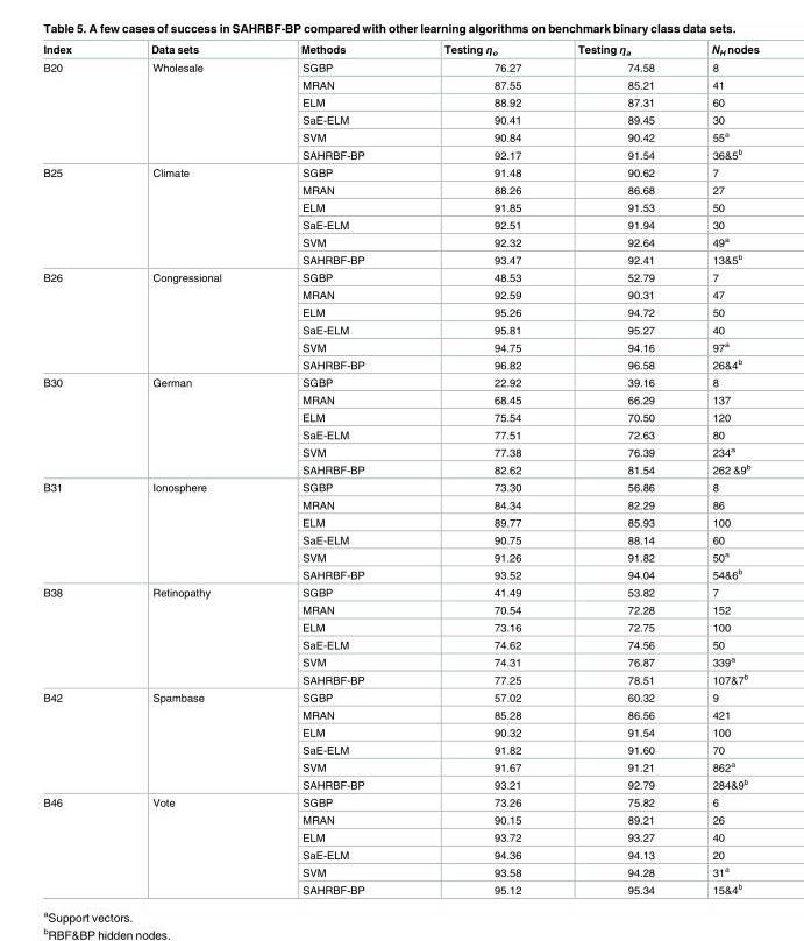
<table><thead><tr><td>Index</td><td>Data sets</td><td>Methods</td><td>Testing η<sub>o</sub></td><td>Testing η<sub>a</sub></td><td>N<sub>H</sub> nodes</td></tr></thead><tbody><tr><td rowspan="6">B20</td><td rowspan="6">Wholesale</td><td>SGBP</td><td>76.27</td><td>74.58</td><td>8</td></tr><tr><td>MRAN</td><td>87.55</td><td>85.21</td><td>41</td></tr><tr><td>ELM</td><td>88.92</td><td>87.31</td><td>60</td></tr><tr><td>SaE-ELM</td><td>90.41</td><td>89.45</td><td>30</td></tr><tr><td>SVM</td><td>90.84</td><td>90.42</td><td>55<sup>a</sup></td></tr><tr><td>SAHRBF-BP</td><td>92.17</td><td>91.54</td><td>36&amp;5<sup>b</sup></td></tr><tr><td rowspan="6">B25</td><td rowspan="6">Climate</td><td>SGBP</td><td>91.48</td><td>90.62</td><td>7</td></tr><tr><td>MRAN</td><td>88.26</td><td>86.68</td><td>27</td></tr><tr><td>ELM</td><td>91.85</td><td>91.53</td><td>50</td></tr><tr><td>SaE-ELM</td><td>92.51</td><td>91.94</td><td>30</td></tr><tr><td>SVM</td><td>92.32</td><td>92.64</td><td>49<sup>a</sup></td></tr><tr><td>SAHRBF-BP</td><td>93.47</td><td>92.41</td><td>13&amp;5<sup>b</sup></td></tr><tr><td rowspan="6">B26</td><td rowspan="6">Congressional</td><td>SGBP</td><td>48.53</td><td>52.79</td><td>7</td></tr><tr><td>MRAN</td><td>92.59</td><td>90.31</td><td>47</td></tr><tr><td>ELM</td><td>95.26</td><td>94.72</td><td>50</td></tr><tr><td>SaE-ELM</td><td>95.81</td><td>95.27</td><td>40</td></tr><tr><td>SVM</td><td>94.75</td><td>94.16</td><td>97<sup>a</sup></td></tr><tr><td>SAHRBF-BP</td><td>96.82</td><td>96.58</td><td>26&amp;4<sup>b</sup></td></tr><tr><td rowspan="6">B30</td><td rowspan="6">German</td><td>SGBP</td><td>22.92</td><td>39.16</td><td>8</td></tr><tr><td>MRAN</td><td>68.45</td><td>66.29</td><td>137</td></tr><tr><td>ELM</td><td>75.54</td><td>70.50</td><td>120</td></tr><tr><td>SaE-ELM</td><td>77.51</td><td>72.63</td><td>80</td></tr><tr><td>SVM</td><td>77.38</td><td>76.39</td><td>234<sup>a</sup></td></tr><tr><td>SAHRBF-BP</td><td>82.62</td><td>81.54</td><td>262 &amp;9<sup>b</sup></td></tr><tr><td rowspan="6">B31</td><td rowspan="6">Ionosphere</td><td>SGBP</td><td>73.30</td><td>56.86</td><td>8</td></tr><tr><td>MRAN</td><td>84.34</td><td>82.29</td><td>86</td></tr><tr><td>ELM</td><td>89.77</td><td>85.93</td><td>100</td></tr><tr><td>SaE-ELM</td><td>90.75</td><td>88.14</td><td>60</td></tr><tr><td>SVM</td><td>91.26</td><td>91.82</td><td>50<sup>a</sup></td></tr><tr><td>SAHRBF-BP</td><td>93.52</td><td>94.04</td><td>54&amp;6<sup>b</sup></td></tr><tr><td rowspan="6">B38</td><td rowspan="6">Retinopathy</td><td>SGBP</td><td>41.49</td><td>53.82</td><td>7</td></tr><tr><td>MRAN</td><td>70.54</td><td>72.28</td><td>152</td></tr><tr><td>ELM</td><td>73.16</td><td>72.75</td><td>100</td></tr><tr><td>SaE-ELM</td><td>74.62</td><td>74.56</td><td>50</td></tr><tr><td>SVM</td><td>74.31</td><td>76.87</td><td>339<sup>a</sup></td></tr><tr><td>SAHRBF-BP</td><td>77.25</td><td>78.51</td><td>107&amp;7<sup>b</sup></td></tr><tr><td rowspan="6">B42</td><td rowspan="6">Spambase</td><td>SGBP</td><td>57.02</td><td>60.32</td><td>9</td></tr><tr><td>MRAN</td><td>85.28</td><td>86.56</td><td>421</td></tr><tr><td>ELM</td><td>90.32</td><td>91.54</td><td>100</td></tr><tr><td>SaE-ELM</td><td>91.82</td><td>91.60</td><td>70</td></tr><tr><td>SVM</td><td>91.67</td><td>91.21</td><td>862<sup>a</sup></td></tr><tr><td>SAHRBF-BP</td><td>93.21</td><td>92.79</td><td>284&amp;9<sup>b</sup></td></tr><tr><td rowspan="6">B46</td><td rowspan="6">Vote</td><td>SGBP</td><td>73.26</td><td>75.82</td><td>6</td></tr><tr><td>MRAN</td><td>90.15</td><td>89.21</td><td>26</td></tr><tr><td>ELM</td><td>93.72</td><td>93.27</td><td>40</td></tr><tr><td>SaE-ELM</td><td>94.36</td><td>94.13</td><td>20</td></tr><tr><td>SVM</td><td>93.58</td><td>94.28</td><td>31<sup>a</sup></td></tr><tr><td>SAHRBF-BP</td><td>95.12</td><td>95.34</td><td>15&amp;4<sup>b</sup></td></tr></tbody></table>